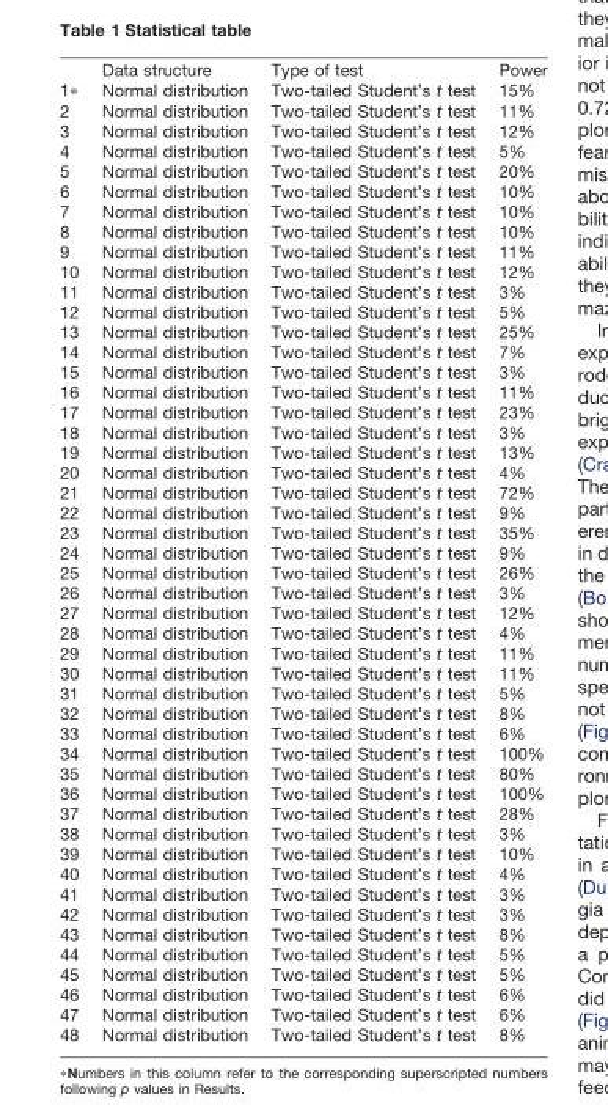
<table><thead><tr><td></td><td>Data structure</td><td>Type of test</td><td>Power</td></tr></thead><tbody><tr><td>1*</td><td>Normal distribution</td><td>Two-tailed Student’s t test</td><td>15%</td></tr><tr><td>2</td><td>Normal distribution</td><td>Two-tailed Student’s t test</td><td>11%</td></tr><tr><td>3</td><td>Normal distribution</td><td>Two-tailed Student’s t test</td><td>12%</td></tr><tr><td>4</td><td>Normal distribution</td><td>Two-tailed Student’s t test</td><td>5%</td></tr><tr><td>5</td><td>Normal distribution</td><td>Two-tailed Student’s t test</td><td>20%</td></tr><tr><td>6</td><td>Normal distribution</td><td>Two-tailed Student’s t test</td><td>10%</td></tr><tr><td>7</td><td>Normal distribution</td><td>Two-tailed Student’s t test</td><td>10%</td></tr><tr><td>8</td><td>Normal distribution</td><td>Two-tailed Student’s t test</td><td>10%</td></tr><tr><td>9</td><td>Normal distribution</td><td>Two-tailed Student’s t test</td><td>11%</td></tr><tr><td>10</td><td>Normal distribution</td><td>Two-tailed Student’s t test</td><td>12%</td></tr><tr><td>11</td><td>Normal distribution</td><td>Two-tailed Student’s t test</td><td>3%</td></tr><tr><td>12</td><td>Normal distribution</td><td>Two-tailed Student’s t test</td><td>5%</td></tr><tr><td>13</td><td>Normal distribution</td><td>Two-tailed Student’s t test</td><td>25%</td></tr><tr><td>14</td><td>Normal distribution</td><td>Two-tailed Student’s t test</td><td>7%</td></tr><tr><td>15</td><td>Normal distribution</td><td>Two-tailed Student’s t test</td><td>3%</td></tr><tr><td>16</td><td>Normal distribution</td><td>Two-tailed Student’s t test</td><td>11%</td></tr><tr><td>17</td><td>Normal distribution</td><td>Two-tailed Student’s t test</td><td>23%</td></tr><tr><td>18</td><td>Normal distribution</td><td>Two-tailed Student’s t test</td><td>3%</td></tr><tr><td>19</td><td>Normal distribution</td><td>Two-tailed Student’s t test</td><td>13%</td></tr><tr><td>20</td><td>Normal distribution</td><td>Two-tailed Student’s t test</td><td>4%</td></tr><tr><td>21</td><td>Normal distribution</td><td>Two-tailed Student’s t test</td><td>72%</td></tr><tr><td>22</td><td>Normal distribution</td><td>Two-tailed Student’s t test</td><td>9%</td></tr><tr><td>23</td><td>Normal distribution</td><td>Two-tailed Student’s t test</td><td>35%</td></tr><tr><td>24</td><td>Normal distribution</td><td>Two-tailed Student’s t test</td><td>9%</td></tr><tr><td>25</td><td>Normal distribution</td><td>Two-tailed Student’s t test</td><td>26%</td></tr><tr><td>26</td><td>Normal distribution</td><td>Two-tailed Student’s t test</td><td>3%</td></tr><tr><td>27</td><td>Normal distribution</td><td>Two-tailed Student’s t test</td><td>12%</td></tr><tr><td>28</td><td>Normal distribution</td><td>Two-tailed Student’s t test</td><td>4%</td></tr><tr><td>29</td><td>Normal distribution</td><td>Two-tailed Student’s t test</td><td>11%</td></tr><tr><td>30</td><td>Normal distribution</td><td>Two-tailed Student’s t test</td><td>11%</td></tr><tr><td>31</td><td>Normal distribution</td><td>Two-tailed Student’s t test</td><td>5%</td></tr><tr><td>32</td><td>Normal distribution</td><td>Two-tailed Student’s t test</td><td>8%</td></tr><tr><td>33</td><td>Normal distribution</td><td>Two-tailed Student’s t test</td><td>6%</td></tr><tr><td>34</td><td>Normal distribution</td><td>Two-tailed Student’s t test</td><td>100%</td></tr><tr><td>35</td><td>Normal distribution</td><td>Two-tailed Student’s t test</td><td>80%</td></tr><tr><td>36</td><td>Normal distribution</td><td>Two-tailed Student’s t test</td><td>100%</td></tr><tr><td>37</td><td>Normal distribution</td><td>Two-tailed Student’s t test</td><td>28%</td></tr><tr><td>38</td><td>Normal distribution</td><td>Two-tailed Student’s t test</td><td>3%</td></tr><tr><td>39</td><td>Normal distribution</td><td>Two-tailed Student’s t test</td><td>10%</td></tr><tr><td>40</td><td>Normal distribution</td><td>Two-tailed Student’s t test</td><td>4%</td></tr><tr><td>41</td><td>Normal distribution</td><td>Two-tailed Student’s t test</td><td>3%</td></tr><tr><td>42</td><td>Normal distribution</td><td>Two-tailed Student’s t test</td><td>3%</td></tr><tr><td>43</td><td>Normal distribution</td><td>Two-tailed Student’s t test</td><td>8%</td></tr><tr><td>44</td><td>Normal distribution</td><td>Two-tailed Student’s t test</td><td>5%</td></tr><tr><td>45</td><td>Normal distribution</td><td>Two-tailed Student’s t test</td><td>5%</td></tr><tr><td>46</td><td>Normal distribution</td><td>Two-tailed Student’s t test</td><td>6%</td></tr><tr><td>47</td><td>Normal distribution</td><td>Two-tailed Student’s t test</td><td>6%</td></tr><tr><td>48</td><td>Normal distribution</td><td>Two-tailed Student’s t test</td><td>8%</td></tr></tbody></table>